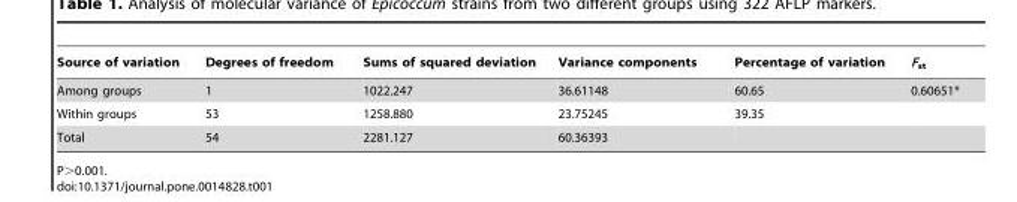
<table><thead><tr><td>Source of variation</td><td>Degrees of freedom</td><td>Sums of squared deviation</td><td>Variance components</td><td>Percentage of variation</td><td>F<sub>st</sub></td></tr></thead><tbody><tr><td>Among groups</td><td>1</td><td>1022.247</td><td>36.61148</td><td>60.65</td><td>0.60651*</td></tr><tr><td>Within groups</td><td>53</td><td>1258.880</td><td>23.75245</td><td>39.35</td><td></td></tr><tr><td>Total</td><td>54</td><td>2281.127</td><td>60.36393</td><td></td><td></td></tr></tbody></table>